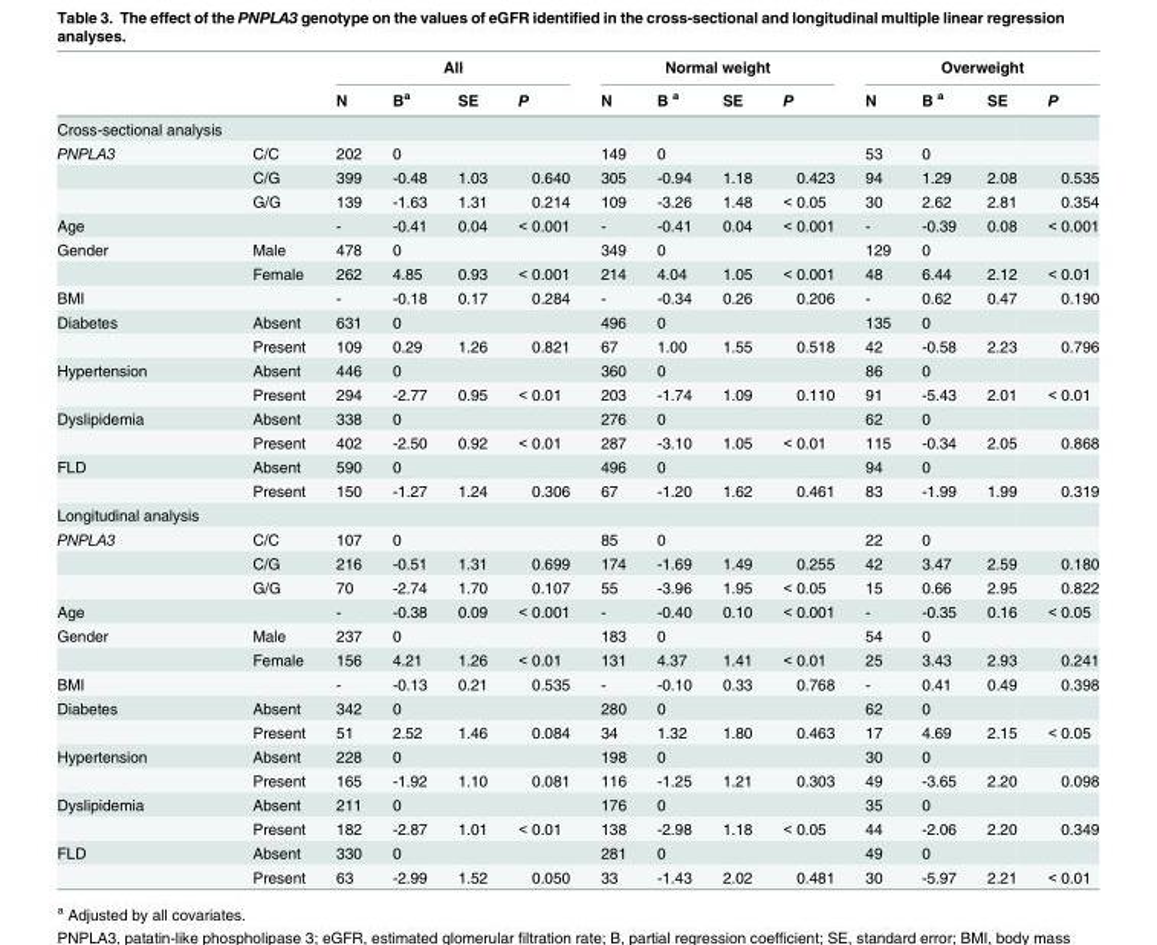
<table><thead><tr><td rowspan="2"></td><td rowspan="2"></td><td colspan="4">All</td><td colspan="4">Normal weight</td><td colspan="4">Overweight</td></tr><tr><td>N</td><td>B<sup>a</sup></td><td>SE</td><td>P</td><td>N</td><td>B <sup>a</sup></td><td>SE</td><td>P</td><td>N</td><td>B <sup>a</sup></td><td>SE</td><td>P</td></tr></thead><tbody><tr><td colspan="14">Cross-sectional analysis</td></tr><tr><td rowspan="3">PNPLA3</td><td>C/C</td><td>202</td><td>0</td><td></td><td></td><td>149</td><td>0</td><td></td><td></td><td>53</td><td>0</td><td></td><td></td></tr><tr><td>C/G</td><td>399</td><td>-0.48</td><td>1.03</td><td>0.640</td><td>305</td><td>-0.94</td><td>1.18</td><td>0.423</td><td>94</td><td>1.29</td><td>2.08</td><td>0.535</td></tr><tr><td>G/G</td><td>139</td><td>-1.63</td><td>1.31</td><td>0.214</td><td>109</td><td>-3.26</td><td>1.48</td><td>&lt; 0.05</td><td>30</td><td>2.62</td><td>2.81</td><td>0.354</td></tr><tr><td>Age</td><td></td><td>-</td><td>-0.41</td><td>0.04</td><td>&lt; 0.001</td><td>-</td><td>-0.41</td><td>0.04</td><td>&lt; 0.001</td><td>-</td><td>-0.39</td><td>0.08</td><td>&lt; 0.001</td></tr><tr><td rowspan="2">Gender</td><td>Male</td><td>478</td><td>0</td><td></td><td></td><td>349</td><td>0</td><td></td><td></td><td>129</td><td>0</td><td></td><td></td></tr><tr><td>Female</td><td>262</td><td>4.85</td><td>0.93</td><td>&lt; 0.001</td><td>214</td><td>4.04</td><td>1.05</td><td>&lt; 0.001</td><td>48</td><td>6.44</td><td>2.12</td><td>&lt; 0.01</td></tr><tr><td>BMI</td><td></td><td>-</td><td>-0.18</td><td>0.17</td><td>0.284</td><td>-</td><td>-0.34</td><td>0.26</td><td>0.206</td><td>-</td><td>0.62</td><td>0.47</td><td>0.190</td></tr><tr><td rowspan="2">Diabetes</td><td>Absent</td><td>631</td><td>0</td><td></td><td></td><td>496</td><td>0</td><td></td><td></td><td>135</td><td>0</td><td></td><td></td></tr><tr><td>Present</td><td>109</td><td>0.29</td><td>1.26</td><td>0.821</td><td>67</td><td>1.00</td><td>1.55</td><td>0.518</td><td>42</td><td>-0.58</td><td>2.23</td><td>0.796</td></tr><tr><td rowspan="2">Hypertension</td><td>Absent</td><td>446</td><td>0</td><td></td><td></td><td>360</td><td>0</td><td></td><td></td><td>86</td><td>0</td><td></td><td></td></tr><tr><td>Present</td><td>294</td><td>-2.77</td><td>0.95</td><td>&lt; 0.01</td><td>203</td><td>-1.74</td><td>1.09</td><td>0.110</td><td>91</td><td>-5.43</td><td>2.01</td><td>&lt; 0.01</td></tr><tr><td rowspan="2">Dyslipidemia</td><td>Absent</td><td>338</td><td>0</td><td></td><td></td><td>276</td><td>0</td><td></td><td></td><td>62</td><td>0</td><td></td><td></td></tr><tr><td>Present</td><td>402</td><td>-2.50</td><td>0.92</td><td>&lt; 0.01</td><td>287</td><td>-3.10</td><td>1.05</td><td>&lt; 0.01</td><td>115</td><td>-0.34</td><td>2.05</td><td>0.868</td></tr><tr><td rowspan="2">FLD</td><td>Absent</td><td>590</td><td>0</td><td></td><td></td><td>496</td><td>0</td><td></td><td></td><td>94</td><td>0</td><td></td><td></td></tr><tr><td>Present</td><td>150</td><td>-1.27</td><td>1.24</td><td>0.306</td><td>67</td><td>-1.20</td><td>1.62</td><td>0.461</td><td>83</td><td>-1.99</td><td>1.99</td><td>0.319</td></tr><tr><td colspan="14">Longitudinal analysis</td></tr><tr><td rowspan="3">PNPLA3</td><td>C/C</td><td>107</td><td>0</td><td></td><td></td><td>85</td><td>0</td><td></td><td></td><td>22</td><td>0</td><td></td><td></td></tr><tr><td>C/G</td><td>216</td><td>-0.51</td><td>1.31</td><td>0.699</td><td>174</td><td>-1.69</td><td>1.49</td><td>0.255</td><td>42</td><td>3.47</td><td>2.59</td><td>0.180</td></tr><tr><td>G/G</td><td>70</td><td>-2.74</td><td>1.70</td><td>0.107</td><td>55</td><td>-3.96</td><td>1.95</td><td>&lt; 0.05</td><td>15</td><td>0.66</td><td>2.95</td><td>0.822</td></tr><tr><td>Age</td><td></td><td>-</td><td>-0.38</td><td>0.09</td><td>&lt; 0.001</td><td>-</td><td>-0.40</td><td>0.10</td><td>&lt; 0.001</td><td>-</td><td>-0.35</td><td>0.16</td><td>&lt; 0.05</td></tr><tr><td rowspan="2">Gender</td><td>Male</td><td>237</td><td>0</td><td></td><td></td><td>183</td><td>0</td><td></td><td></td><td>54</td><td>0</td><td></td><td></td></tr><tr><td>Female</td><td>156</td><td>4.21</td><td>1.26</td><td>&lt; 0.01</td><td>131</td><td>4.37</td><td>1.41</td><td>&lt; 0.01</td><td>25</td><td>3.43</td><td>2.93</td><td>0.241</td></tr><tr><td>BMI</td><td></td><td>-</td><td>-0.13</td><td>0.21</td><td>0.535</td><td>-</td><td>-0.10</td><td>0.33</td><td>0.768</td><td>-</td><td>0.41</td><td>0.49</td><td>0.398</td></tr><tr><td rowspan="2">Diabetes</td><td>Absent</td><td>342</td><td>0</td><td></td><td></td><td>280</td><td>0</td><td></td><td></td><td>62</td><td>0</td><td></td><td></td></tr><tr><td>Present</td><td>51</td><td>2.52</td><td>1.46</td><td>0.084</td><td>34</td><td>1.32</td><td>1.80</td><td>0.463</td><td>17</td><td>4.69</td><td>2.15</td><td>&lt; 0.05</td></tr><tr><td rowspan="2">Hypertension</td><td>Absent</td><td>228</td><td>0</td><td></td><td></td><td>198</td><td>0</td><td></td><td></td><td>30</td><td>0</td><td></td><td></td></tr><tr><td>Present</td><td>165</td><td>-1.92</td><td>1.10</td><td>0.081</td><td>116</td><td>-1.25</td><td>1.21</td><td>0.303</td><td>49</td><td>-3.65</td><td>2.20</td><td>0.098</td></tr><tr><td rowspan="2">Dyslipidemia</td><td>Absent</td><td>211</td><td>0</td><td></td><td></td><td>176</td><td>0</td><td></td><td></td><td>35</td><td>0</td><td></td><td></td></tr><tr><td>Present</td><td>182</td><td>-2.87</td><td>1.01</td><td>&lt; 0.01</td><td>138</td><td>-2.98</td><td>1.18</td><td>&lt; 0.05</td><td>44</td><td>-2.06</td><td>2.20</td><td>0.349</td></tr><tr><td rowspan="2">FLD</td><td>Absent</td><td>330</td><td>0</td><td></td><td></td><td>281</td><td>0</td><td></td><td></td><td>49</td><td>0</td><td></td><td></td></tr><tr><td>Present</td><td>63</td><td>-2.99</td><td>1.52</td><td>0.050</td><td>33</td><td>-1.43</td><td>2.02</td><td>0.481</td><td>30</td><td>-5.97</td><td>2.21</td><td>&lt; 0.01</td></tr></tbody></table>